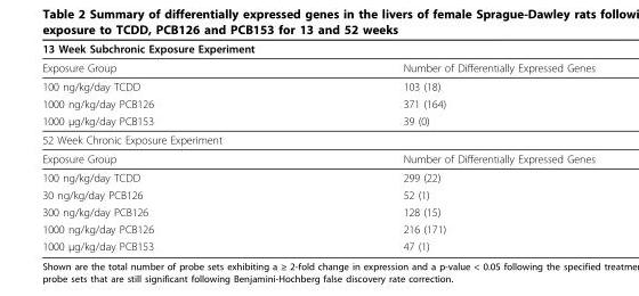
<table><thead><tr><td>13 Week Subchronic Exposure Experiment</td><td></td></tr></thead><tbody><tr><td>Exposure Group</td><td>Number of Differentially Expressed Genes</td></tr><tr><td>100 ng/kg/day TCDD</td><td>103 (18)</td></tr><tr><td>1000 ng/kg/day PCB126</td><td>371 (164)</td></tr><tr><td>1000 μg/kg/day PCB153</td><td>39 (0)</td></tr><tr><td colspan="2">52 Week Chronic Exposure Experiment</td></tr><tr><td>Exposure Group</td><td>Number of Differentially Expressed Genes</td></tr><tr><td>100 ng/kg/day TCDD</td><td>299 (22)</td></tr><tr><td>30 ng/kg/day PCB126</td><td>52 (1)</td></tr><tr><td>300 ng/kg/day PCB126</td><td>128 (15)</td></tr><tr><td>1000 ng/kg/day PCB126</td><td>216 (171)</td></tr><tr><td>1000 μg/kg/day PCB153</td><td>47 (1)</td></tr></tbody></table>